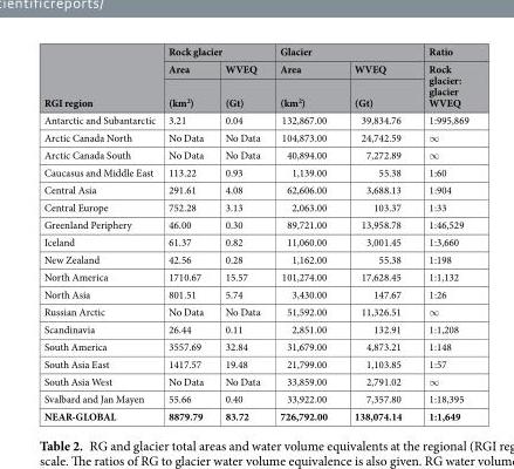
<table><thead><tr><td rowspan="3">RGI region</td><td colspan="2">Rock glacier</td><td colspan="2">Glacier</td><td rowspan="3">Ratio Rock glacier: glacier WVEQ</td></tr><tr><td rowspan="2">Area (km<sup>2</sup>)</td><td rowspan="2">WVEQ (Gt)</td><td rowspan="2">Area (km<sup>2</sup>)</td><td rowspan="2">WVEQ (Gt)</td></tr><tr></tr></thead><tbody><tr><td>Antarctic and Subantarctic</td><td>3.21</td><td>0.04</td><td>132,867.00</td><td>39,834.76</td><td>1:995,869</td></tr><tr><td>Arctic Canada North</td><td>No Data</td><td>No Data</td><td>104,873.00</td><td>24,742.59</td><td>∞</td></tr><tr><td>Arctic Canada South</td><td>No Data</td><td>No Data</td><td>40,894.00</td><td>7,272.89</td><td>∞</td></tr><tr><td>Caucasus and Middle East</td><td>113.22</td><td>0.93</td><td>1,139.00</td><td>55.38</td><td>1:60</td></tr><tr><td>Central Asia</td><td>291.61</td><td>4.08</td><td>62,606.00</td><td>3,688.13</td><td>1:904</td></tr><tr><td>Central Europe</td><td>752.28</td><td>3.13</td><td>2,063.00</td><td>103.37</td><td>1:33</td></tr><tr><td>Greenland Periphery</td><td>46.00</td><td>0.30</td><td>89,721.00</td><td>13,958.78</td><td>1:46,529</td></tr><tr><td>Iceland</td><td>61.37</td><td>0.82</td><td>11,060.00</td><td>3,001.45</td><td>1:3,660</td></tr><tr><td>New Zealand</td><td>42.56</td><td>0.28</td><td>1,162.00</td><td>55.38</td><td>1:198</td></tr><tr><td>North America</td><td>1710.67</td><td>15.57</td><td>101,274.00</td><td>17,628.45</td><td>1:1,132</td></tr><tr><td>North Asia</td><td>801.51</td><td>5.74</td><td>3,430.00</td><td>147.67</td><td>1:26</td></tr><tr><td>Russian Arctic</td><td>No Data</td><td>No Data</td><td>51,592.00</td><td>11,326.51</td><td>∞</td></tr><tr><td>Scandinavia</td><td>26.44</td><td>0.11</td><td>2,851.00</td><td>132.91</td><td>1:1,208</td></tr><tr><td>South America</td><td>3557.69</td><td>32.84</td><td>31,679.00</td><td>4,873.21</td><td>1:148</td></tr><tr><td>South Asia East</td><td>1417.57</td><td>19.48</td><td>21,799.00</td><td>1,103.85</td><td>1:57</td></tr><tr><td>South Asia West</td><td>No Data</td><td>No Data</td><td>33,859.00</td><td>2,791.02</td><td>∞</td></tr><tr><td>Svalbard and Jan Mayen</td><td>55.66</td><td>0.40</td><td>33,922.00</td><td>7,357.80</td><td>1:18,395</td></tr><tr><td>NEAR-GLOBAL</td><td>8879.79</td><td>83.72</td><td>726,792.00</td><td>138,074.14</td><td>1:1,649</td></tr></tbody></table>